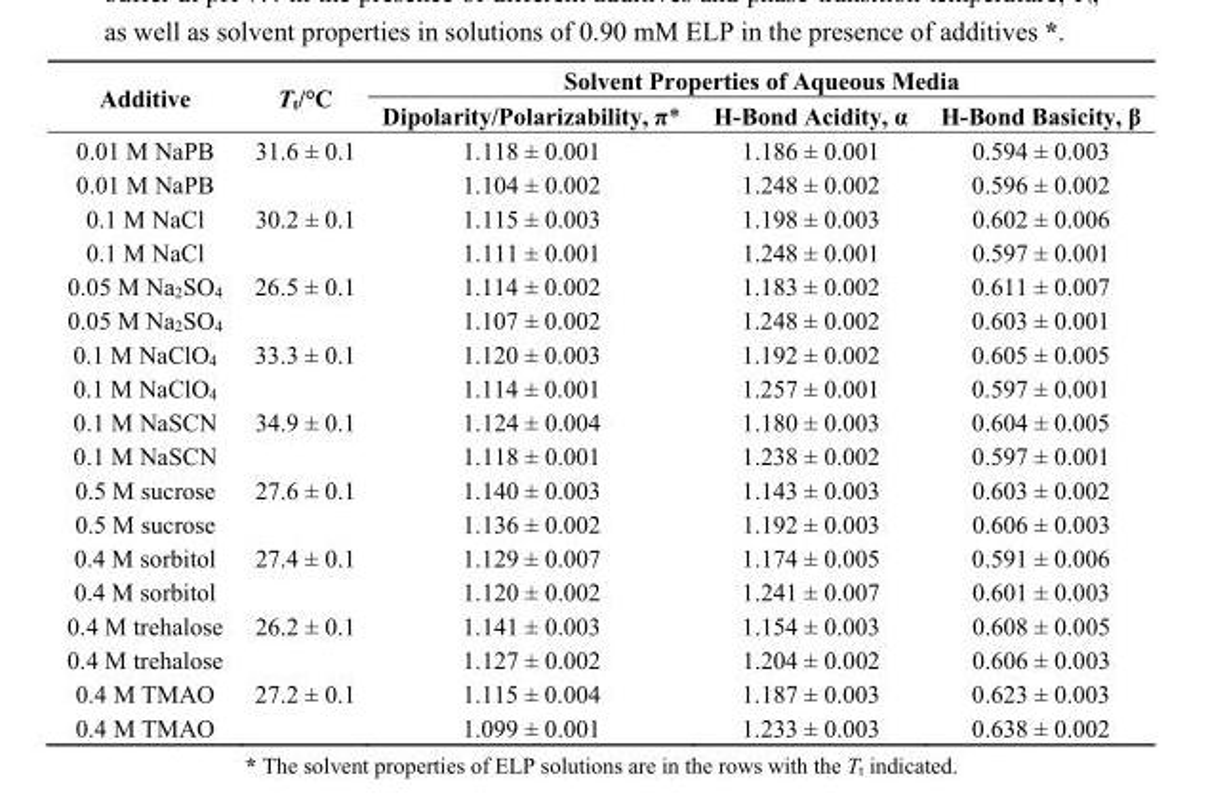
<table><thead><tr><td rowspan="2">Additive</td><td rowspan="2">T<sub>t</sub>/°C</td><td colspan="3">Solvent Properties of Aqueous Media</td></tr><tr><td>Dipolarity/Polarizability, π*</td><td>H-Bond Acidity, α</td><td>H-Bond Basicity, β</td></tr></thead><tbody><tr><td>0.01 M NaPB</td><td>31.6 ± 0.1</td><td>1.118 ± 0.001</td><td>1.186 ± 0.001</td><td>0.594 ± 0.003</td></tr><tr><td>0.01 M NaPB</td><td></td><td>1.104 ± 0.002</td><td>1.248 ± 0.002</td><td>0.596 ± 0.002</td></tr><tr><td>0.1 M NaCl</td><td>30.2 ± 0.1</td><td>1.115 ± 0.003</td><td>1.198 ± 0.003</td><td>0.602 ± 0.006</td></tr><tr><td>0.1 M NaCl</td><td></td><td>1.111 ± 0.001</td><td>1.248 ± 0.001</td><td>0.597 ± 0.001</td></tr><tr><td>0.05 M Na<sub>2</sub>SO<sub>4</sub></td><td>26.5 ± 0.1</td><td>1.114 ± 0.002</td><td>1.183 ± 0.002</td><td>0.611 ± 0.007</td></tr><tr><td>0.05 M Na<sub>2</sub>SO<sub>4</sub></td><td></td><td>1.107 ± 0.002</td><td>1.248 ± 0.002</td><td>0.603 ± 0.001</td></tr><tr><td>0.1 M NaClO<sub>4</sub></td><td>33.3 ± 0.1</td><td>1.120 ± 0.003</td><td>1.192 ± 0.002</td><td>0.605 ± 0.005</td></tr><tr><td>0.1 M NaClO<sub>4</sub></td><td></td><td>1.114 ± 0.001</td><td>1.257 ± 0.001</td><td>0.597 ± 0.001</td></tr><tr><td>0.1 M NaSCN</td><td>34.9 ± 0.1</td><td>1.124 ± 0.004</td><td>1.180 ± 0.003</td><td>0.604 ± 0.005</td></tr><tr><td>0.1 M NaSCN</td><td></td><td>1.118 ± 0.001</td><td>1.238 ± 0.002</td><td>0.597 ± 0.001</td></tr><tr><td>0.5 M sucrose</td><td>27.6 ± 0.1</td><td>1.140 ± 0.003</td><td>1.143 ± 0.003</td><td>0.603 ± 0.002</td></tr><tr><td>0.5 M sucrose</td><td></td><td>1.136 ± 0.002</td><td>1.192 ± 0.003</td><td>0.606 ± 0.003</td></tr><tr><td>0.4 M sorbitol</td><td>27.4 ± 0.1</td><td>1.129 ± 0.007</td><td>1.174 ± 0.005</td><td>0.591 ± 0.006</td></tr><tr><td>0.4 M sorbitol</td><td></td><td>1.120 ± 0.002</td><td>1.241 ± 0.007</td><td>0.601 ± 0.003</td></tr><tr><td>0.4 M trehalose</td><td>26.2 ± 0.1</td><td>1.141 ± 0.003</td><td>1.154 ± 0.003</td><td>0.608 ± 0.005</td></tr><tr><td>0.4 M trehalose</td><td></td><td>1.127 ± 0.002</td><td>1.204 ± 0.002</td><td>0.606 ± 0.003</td></tr><tr><td>0.4 M TMAO</td><td>27.2 ± 0.1</td><td>1.115 ± 0.004</td><td>1.187 ± 0.003</td><td>0.623 ± 0.003</td></tr><tr><td>0.4 M TMAO</td><td></td><td>1.099 ± 0.001</td><td>1.233 ± 0.003</td><td>0.638 ± 0.002</td></tr></tbody></table>